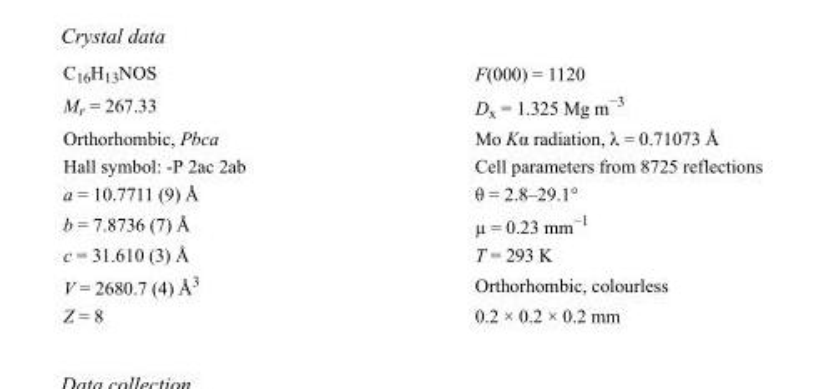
<table><tbody><tr><td>C<sub>16</sub>H<sub>13</sub>NOS</td><td>F(000) = 1120</td></tr><tr><td>M<sub>r</sub> = 267.33</td><td>D<sub>x</sub> = 1.325 Mg m<sup>−3</sup></td></tr><tr><td>Orthorhombic, Pbca</td><td>Mo Kα radiation, λ = 0.71073 Å</td></tr><tr><td>Hall symbol: -P 2ac 2ab</td><td>Cell parameters from 8725 reflections</td></tr><tr><td>a = 10.7711 (9) Å</td><td>θ = 2.8–29.1°</td></tr><tr><td>b = 7.8736 (7) Å</td><td>µ = 0.23 mm<sup>−1</sup></td></tr><tr><td>c = 31.610 (3) Å</td><td>T = 293 K</td></tr><tr><td>V = 2680.7 (4) Å<sup>3</sup></td><td>Orthorhombic, colourless</td></tr><tr><td>Z = 8</td><td>0.2 × 0.2 × 0.2 mm</td></tr></tbody></table>